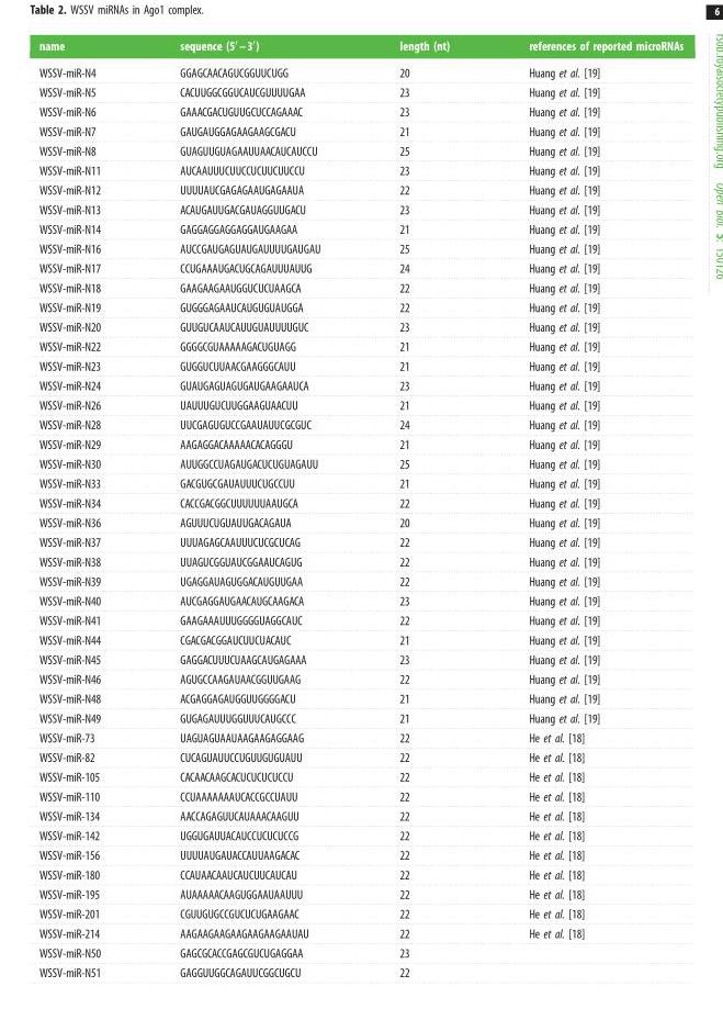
<table><thead><tr><td>name</td><td>sequence (5′ –3′)</td><td>length (nt)</td><td>references of reported microRNAs</td></tr></thead><tbody><tr><td>WSSV-miR-N4</td><td>GGAGCAACAGUCGGUUCUGG</td><td>20</td><td>Huang et al. [19]</td></tr><tr><td>WSSV-miR-N5</td><td>CACUUGGCGGUCAUCGUUUUGAA</td><td>23</td><td>Huang et al. [19]</td></tr><tr><td>WSSV-miR-N6</td><td>GAAACGACUGUUGCUCCAGAAAC</td><td>23</td><td>Huang et al. [19]</td></tr><tr><td>WSSV-miR-N7</td><td>GAUGAUGGAGAAGAAGCGACU</td><td>21</td><td>Huang et al. [19]</td></tr><tr><td>WSSV-miR-N8</td><td>GUAGUUGUAGAAUUAACAUCAUCCU</td><td>25</td><td>Huang et al. [19]</td></tr><tr><td>WSSV-miR-N11</td><td>AUCAAUUUCUUCCUCUUCUUCCU</td><td>23</td><td>Huang et al. [19]</td></tr><tr><td>WSSV-miR-N12</td><td>UUUUAUCGAGAGAAUGAGAAUA</td><td>22</td><td>Huang et al. [19]</td></tr><tr><td>WSSV-miR-N13</td><td>ACAUGAUUGACGAUAGGUUGACU</td><td>23</td><td>Huang et al. [19]</td></tr><tr><td>WSSV-miR-N14</td><td>GAGGAGGAGGAGGAUGAAGAA</td><td>21</td><td>Huang et al. [19]</td></tr><tr><td>WSSV-miR-N16</td><td>AUCCGAUGAGUAUGAUUUUGAUGAU</td><td>25</td><td>Huang et al. [19]</td></tr><tr><td>WSSV-miR-N17</td><td>CCUGAAAUGACUGCAGAUUUAUUG</td><td>24</td><td>Huang et al. [19]</td></tr><tr><td>WSSV-miR-N18</td><td>GAAGAAGAAUGGUCUCUAAGCA</td><td>22</td><td>Huang et al. [19]</td></tr><tr><td>WSSV-miR-N19</td><td>GUGGGAGAAUCAUGUGUAUGGA</td><td>22</td><td>Huang et al. [19]</td></tr><tr><td>WSSV-miR-N20</td><td>GUUGUCAAUCAUUGUAUUUUGUC</td><td>23</td><td>Huang et al. [19]</td></tr><tr><td>WSSV-miR-N22</td><td>GGGGCGUAAAAAGACUGUAGG</td><td>21</td><td>Huang et al. [19]</td></tr><tr><td>WSSV-miR-N23</td><td>GUGGUCUUAACGAAGGGCAUU</td><td>21</td><td>Huang et al. [19]</td></tr><tr><td>WSSV-miR-N24</td><td>GUAUGAGUAGUGAUGAAGAAUCA</td><td>23</td><td>Huang et al. [19]</td></tr><tr><td>WSSV-miR-N26</td><td>UAUUUGUCUUGGAAGUAACUU</td><td>21</td><td>Huang et al. [19]</td></tr><tr><td>WSSV-miR-N28</td><td>UUCGAGUGUCCGAAUAUUCGCGUC</td><td>24</td><td>Huang et al. [19]</td></tr><tr><td>WSSV-miR-N29</td><td>AAGAGGACAAAAACACAGGGU</td><td>21</td><td>Huang et al. [19]</td></tr><tr><td>WSSV-miR-N30</td><td>AUUGGCCUAGAUGACUCUGUAGAUU</td><td>25</td><td>Huang et al. [19]</td></tr><tr><td>WSSV-miR-N33</td><td>GACGUGCGAUAUUUCUGCCUU</td><td>21</td><td>Huang et al. [19]</td></tr><tr><td>WSSV-miR-N34</td><td>CACCGACGGCUUUUUUAAUGCA</td><td>22</td><td>Huang et al. [19]</td></tr><tr><td>WSSV-miR-N36</td><td>AGUUUCUGUAUUGACAGAUA</td><td>20</td><td>Huang et al. [19]</td></tr><tr><td>WSSV-miR-N37</td><td>UUUAGAGCAAUUUCUCGCUCAG</td><td>22</td><td>Huang et al. [19]</td></tr><tr><td>WSSV-miR-N38</td><td>UUAGUCGGUAUCGGAAUCAGUG</td><td>22</td><td>Huang et al. [19]</td></tr><tr><td>WSSV-miR-N39</td><td>UGAGGAUAGUGGACAUGUUGAA</td><td>22</td><td>Huang et al. [19]</td></tr><tr><td>WSSV-miR-N40</td><td>AUCGAGGAUGAACAUGCAAGACA</td><td>23</td><td>Huang et al. [19]</td></tr><tr><td>WSSV-miR-N41</td><td>GAAGAAAUUUGGGGUAGGCAUC</td><td>22</td><td>Huang et al. [19]</td></tr><tr><td>WSSV-miR-N44</td><td>CGACGACGGAUCUUCUACAUC</td><td>21</td><td>Huang et al. [19]</td></tr><tr><td>WSSV-miR-N45</td><td>GAGGACUUUCUAAGCAUGAGAAA</td><td>23</td><td>Huang et al. [19]</td></tr><tr><td>WSSV-miR-N46</td><td>AGUGCCAAGAUAACGGUUGAAG</td><td>22</td><td>Huang et al. [19]</td></tr><tr><td>WSSV-miR-N48</td><td>ACGAGGAGAUGGUUGGGGACU</td><td>21</td><td>Huang et al. [19]</td></tr><tr><td>WSSV-miR-N49</td><td>GUGAGAUUUGGUUUCAUGCCC</td><td>21</td><td>Huang et al. [19]</td></tr><tr><td>WSSV-miR-73</td><td>UAGUAGUAAUAAGAAGAGGAAG</td><td>22</td><td>He et al. [18]</td></tr><tr><td>WSSV-miR-82</td><td>CUCAGUAUUCCUGUUGUGUAUU</td><td>22</td><td>He et al. [18]</td></tr><tr><td>WSSV-miR-105</td><td>CACAACAAGCACUCUCUCUCCU</td><td>22</td><td>He et al. [18]</td></tr><tr><td>WSSV-miR-110</td><td>CCUAAAAAAAUCACCGCCUAUU</td><td>22</td><td>He et al. [18]</td></tr><tr><td>WSSV-miR-134</td><td>AACCAGAGUUCAUAAACAAGUU</td><td>22</td><td>He et al. [18]</td></tr><tr><td>WSSV-miR-142</td><td>UGGUGAUUACAUCCUCUCUCCG</td><td>22</td><td>He et al. [18]</td></tr><tr><td>WSSV-miR-156</td><td>UUUUAUGAUACCAUUAAGACAC</td><td>22</td><td>He et al. [18]</td></tr><tr><td>WSSV-miR-180</td><td>CCAUAACAAUCAUCUUCAUCAU</td><td>22</td><td>He et al. [18]</td></tr><tr><td>WSSV-miR-195</td><td>AUAAAAACAAGUGGAAUAAUUU</td><td>22</td><td>He et al. [18]</td></tr><tr><td>WSSV-miR-201</td><td>CGUUGUGCCGUCUCUGAAGAAC</td><td>22</td><td>He et al. [18]</td></tr><tr><td>WSSV-miR-214</td><td>AAGAAGAAGAAGAAGAAGAAUAU</td><td>22</td><td>He et al. [18]</td></tr><tr><td>WSSV-miR-N50</td><td>GAGCGCACCGAGCGUCUGAGGAA</td><td>23</td><td></td></tr><tr><td>WSSV-miR-N51</td><td>GAGGUUGGCAGAUUCGGCUGCU</td><td>22</td><td></td></tr></tbody></table>